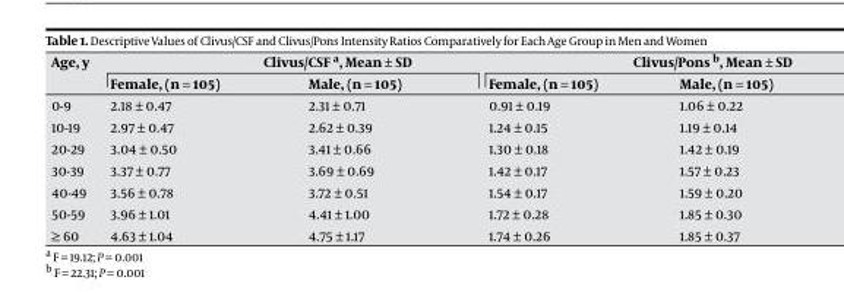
<table><thead><tr><td rowspan="2">age, y</td><td colspan="2">Clivus/CSF a, Mean ± Sd</td><td colspan="2">Clivus/Pons b, Mean ± Sd</td></tr><tr><td>Female, (n = 105)</td><td>Male, (n = 105)</td><td>Female, (n = 105)</td><td>Male, (n = 105)</td></tr></thead><tbody><tr><td>0-9</td><td>2.18 ± 0.47</td><td>2.31 ± 0.71</td><td>0.91 ± 0.19</td><td>1.06 ± 0.22</td></tr><tr><td>10-19</td><td>2.97 ± 0.47</td><td>2.62 ± 0.39</td><td>1.24 ± 0.15</td><td>1.19 ± 0.14</td></tr><tr><td>20-29</td><td>3.04 ± 0.50</td><td>3.41 ± 0.66</td><td>1.30 ± 0.18</td><td>1.42 ± 0.19</td></tr><tr><td>30-39</td><td>3.37 ± 0.77</td><td>3.69 ± 0.69</td><td>1.42 ± 0.17</td><td>1.57 ± 0.23</td></tr><tr><td>40-49</td><td>3.56 ± 0.78</td><td>3.72 ± 0.51</td><td>1.54 ± 0.17</td><td>1.59 ± 0.20</td></tr><tr><td>50-59</td><td>3.96 ± 1.01</td><td>4.41 ± 1.00</td><td>1.72 ± 0.28</td><td>1.85 ± 0.30</td></tr><tr><td>≥ 60</td><td>4.63 ± 1.04</td><td>4.75 ± 1.17</td><td>1.74 ± 0.26</td><td>1.85 ± 0.37</td></tr></tbody></table>